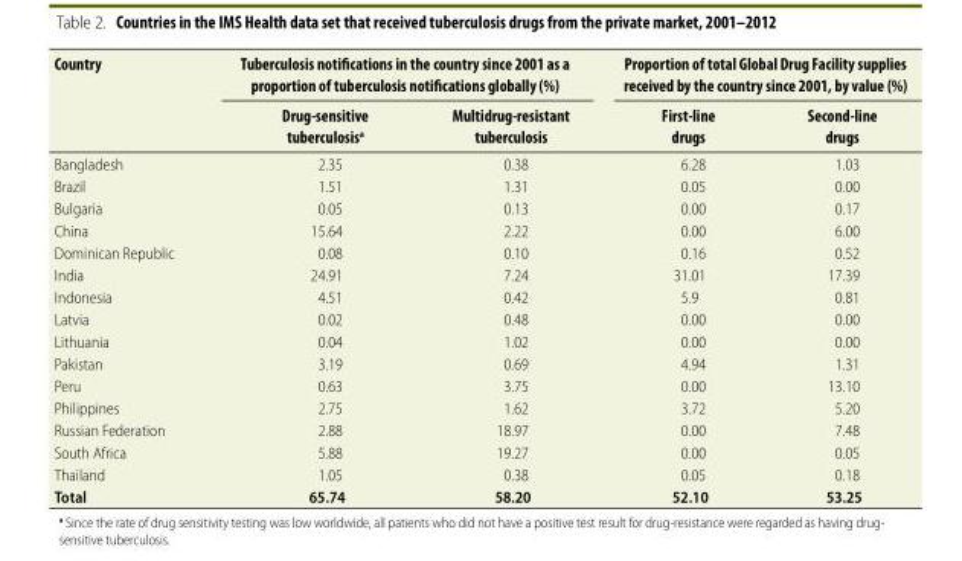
<table><thead><tr><td rowspan="2">Country</td><td colspan="2">Tuberculosis notifications in the country since 2001 as a proportion of tuberculosis notifications globally (%)</td><td colspan="2">Proportion of total Global Drug Facility supplies received by the country since 2001, by value (%)</td></tr><tr><td>Drug-sensitive tuberculosis<sup>a</sup></td><td>Multidrug-resistant tuberculosis</td><td>First-line drugs</td><td>Second-line drugs</td></tr></thead><tbody><tr><td>Bangladesh</td><td>2.35</td><td>0.38</td><td>6.28</td><td>1.03</td></tr><tr><td>Brazil</td><td>1.51</td><td>1.31</td><td>0.05</td><td>0.00</td></tr><tr><td>Bulgaria</td><td>0.05</td><td>0.13</td><td>0.00</td><td>0.17</td></tr><tr><td>China</td><td>15.64</td><td>2.22</td><td>0.00</td><td>6.00</td></tr><tr><td>Dominican Republic</td><td>0.08</td><td>0.10</td><td>0.16</td><td>0.52</td></tr><tr><td>India</td><td>24.91</td><td>7.24</td><td>31.01</td><td>17.39</td></tr><tr><td>Indonesia</td><td>4.51</td><td>0.42</td><td>5.9</td><td>0.81</td></tr><tr><td>Latvia</td><td>0.02</td><td>0.48</td><td>0.00</td><td>0.00</td></tr><tr><td>Lithuania</td><td>0.04</td><td>1.02</td><td>0.00</td><td>0.00</td></tr><tr><td>Pakistan</td><td>3.19</td><td>0.69</td><td>4.94</td><td>1.31</td></tr><tr><td>Peru</td><td>0.63</td><td>3.75</td><td>0.00</td><td>13.10</td></tr><tr><td>Philippines</td><td>2.75</td><td>1.62</td><td>3.72</td><td>5.20</td></tr><tr><td>Russian Federation</td><td>2.88</td><td>18.97</td><td>0.00</td><td>7.48</td></tr><tr><td>South Africa</td><td>5.88</td><td>19.27</td><td>0.00</td><td>0.05</td></tr><tr><td>Thailand</td><td>1.05</td><td>0.38</td><td>0.05</td><td>0.18</td></tr><tr><td>Total</td><td>65.74</td><td>58.20</td><td>52.10</td><td>53.25</td></tr></tbody></table>